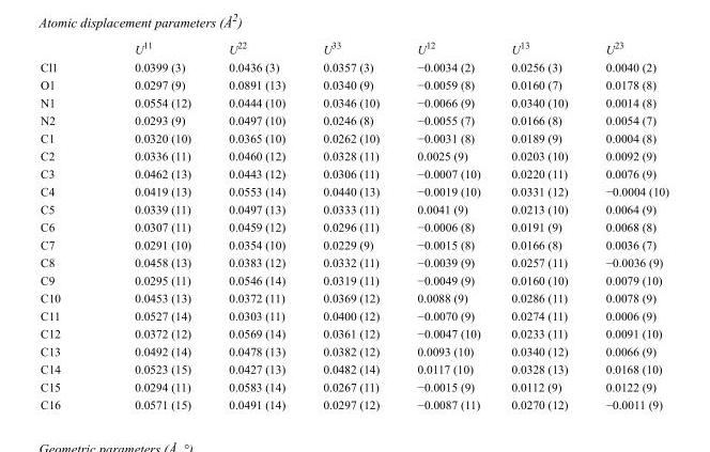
<table><thead><tr><td></td><td>U<sup>11</sup></td><td>U<sup>22</sup></td><td>U<sup>33</sup></td><td>U<sup>12</sup></td><td>U<sup>13</sup></td><td>U<sup>23</sup></td></tr></thead><tbody><tr><td>Cl1</td><td>0.0399 (3)</td><td>0.0436 (3)</td><td>0.0357 (3)</td><td>−0.0034 (2)</td><td>0.0256 (3)</td><td>0.0040 (2)</td></tr><tr><td>O1</td><td>0.0297 (9)</td><td>0.0891 (13)</td><td>0.0340 (9)</td><td>−0.0059 (8)</td><td>0.0160 (7)</td><td>0.0178 (8)</td></tr><tr><td>N1</td><td>0.0554 (12)</td><td>0.0444 (10)</td><td>0.0346 (10)</td><td>−0.0066 (9)</td><td>0.0340 (10)</td><td>0.0014 (8)</td></tr><tr><td>N2</td><td>0.0293 (9)</td><td>0.0497 (10)</td><td>0.0246 (8)</td><td>−0.0055 (7)</td><td>0.0166 (8)</td><td>0.0054 (7)</td></tr><tr><td>C1</td><td>0.0320 (10)</td><td>0.0365 (10)</td><td>0.0262 (10)</td><td>−0.0031 (8)</td><td>0.0189 (9)</td><td>0.0004 (8)</td></tr><tr><td>C2</td><td>0.0336 (11)</td><td>0.0460 (12)</td><td>0.0328 (11)</td><td>0.0025 (9)</td><td>0.0203 (10)</td><td>0.0092 (9)</td></tr><tr><td>C3</td><td>0.0462 (13)</td><td>0.0443 (12)</td><td>0.0306 (11)</td><td>−0.0007 (10)</td><td>0.0220 (11)</td><td>0.0076 (9)</td></tr><tr><td>C4</td><td>0.0419 (13)</td><td>0.0553 (14)</td><td>0.0440 (13)</td><td>−0.0019 (10)</td><td>0.0331 (12)</td><td>−0.0004 (10)</td></tr><tr><td>C5</td><td>0.0339 (11)</td><td>0.0497 (13)</td><td>0.0333 (11)</td><td>0.0041 (9)</td><td>0.0213 (10)</td><td>0.0064 (9)</td></tr><tr><td>C6</td><td>0.0307 (11)</td><td>0.0459 (12)</td><td>0.0296 (11)</td><td>−0.0006 (8)</td><td>0.0191 (9)</td><td>0.0068 (8)</td></tr><tr><td>C7</td><td>0.0291 (10)</td><td>0.0354 (10)</td><td>0.0229 (9)</td><td>−0.0015 (8)</td><td>0.0166 (8)</td><td>0.0036 (7)</td></tr><tr><td>C8</td><td>0.0458 (13)</td><td>0.0383 (12)</td><td>0.0332 (11)</td><td>−0.0039 (9)</td><td>0.0257 (11)</td><td>−0.0036 (9)</td></tr><tr><td>C9</td><td>0.0295 (11)</td><td>0.0546 (14)</td><td>0.0319 (11)</td><td>−0.0049 (9)</td><td>0.0160 (10)</td><td>0.0079 (10)</td></tr><tr><td>C10</td><td>0.0453 (13)</td><td>0.0372 (11)</td><td>0.0369 (12)</td><td>0.0088 (9)</td><td>0.0286 (11)</td><td>0.0078 (9)</td></tr><tr><td>C11</td><td>0.0527 (14)</td><td>0.0303 (11)</td><td>0.0400 (12)</td><td>−0.0070 (9)</td><td>0.0274 (11)</td><td>0.0006 (9)</td></tr><tr><td>C12</td><td>0.0372 (12)</td><td>0.0569 (14)</td><td>0.0361 (12)</td><td>−0.0047 (10)</td><td>0.0233 (11)</td><td>0.0091 (10)</td></tr><tr><td>C13</td><td>0.0492 (14)</td><td>0.0478 (13)</td><td>0.0382 (12)</td><td>0.0093 (10)</td><td>0.0340 (12)</td><td>0.0066 (9)</td></tr><tr><td>C14</td><td>0.0523 (15)</td><td>0.0427 (13)</td><td>0.0482 (14)</td><td>0.0117 (10)</td><td>0.0328 (13)</td><td>0.0168 (10)</td></tr><tr><td>C15</td><td>0.0294 (11)</td><td>0.0583 (14)</td><td>0.0267 (11)</td><td>−0.0015 (9)</td><td>0.0112 (9)</td><td>0.0122 (9)</td></tr><tr><td>C16</td><td>0.0571 (15)</td><td>0.0491 (14)</td><td>0.0297 (12)</td><td>−0.0087 (11)</td><td>0.0270 (12)</td><td>−0.0011 (9)</td></tr></tbody></table>